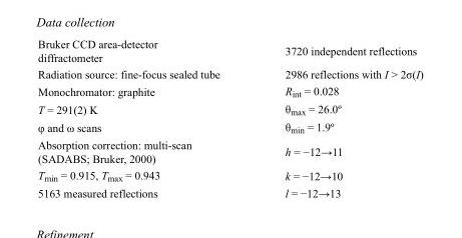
<table><tbody><tr><td>Bruker CCD area-detector diffractometer</td><td>3720 independent reflections</td></tr><tr><td>Radiation source: fine-focus sealed tube</td><td>2986 reflections with I &gt; 2σ(I)</td></tr><tr><td>Monochromator: graphite</td><td>R<sub>int</sub> = 0.028</td></tr><tr><td>T = 291(2) K</td><td>θ<sub>max</sub> = 26.0º</td></tr><tr><td>φ and ω scans</td><td>θ<sub>min</sub> = 1.9º</td></tr><tr><td>Absorption correction: multi-scan (SADABS; Bruker, 2000)</td><td>h = −12→11</td></tr><tr><td>T<sub>min</sub> = 0.915, T<sub>max</sub> = 0.943</td><td>k = −12→10</td></tr><tr><td>5163 measured reflections</td><td>l = −12→13</td></tr></tbody></table>